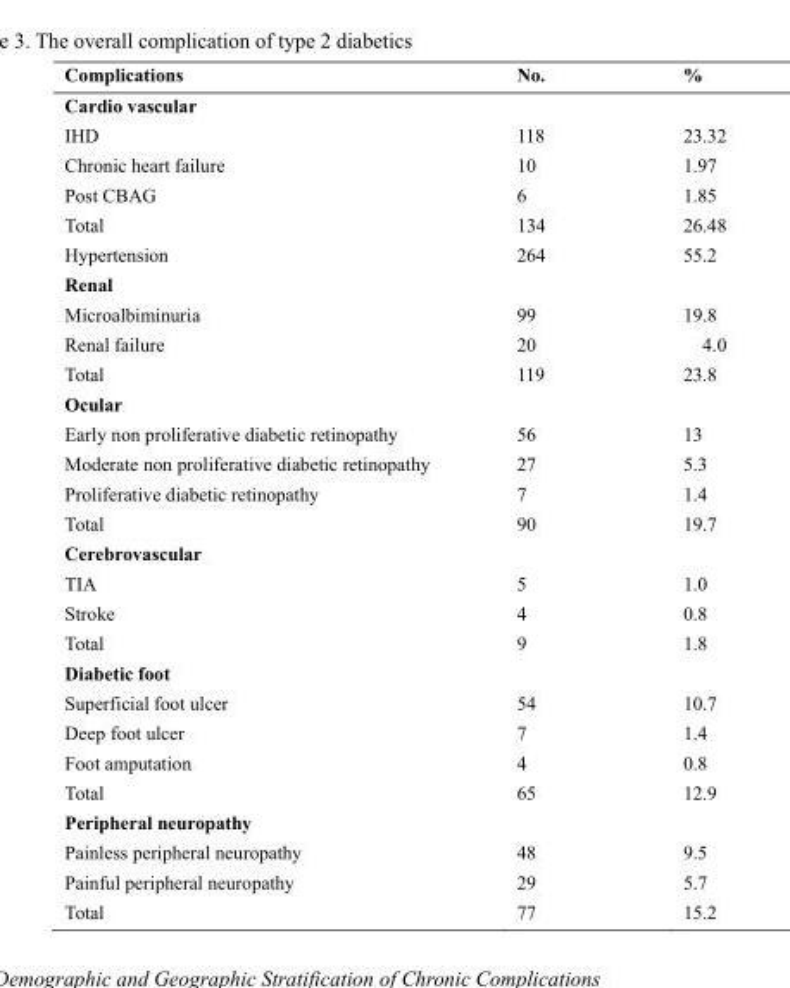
<table><thead><tr><td>Complications</td><td>No.</td><td>%</td></tr></thead><tbody><tr><td colspan="3">Cardio vascular</td></tr><tr><td>IHD</td><td>118</td><td>23.32</td></tr><tr><td>Chronic heart failure</td><td>10</td><td>1.97</td></tr><tr><td>Post CBAG</td><td>6</td><td>1.85</td></tr><tr><td>Total</td><td>134</td><td>26.48</td></tr><tr><td>Hypertension</td><td>264</td><td>55.2</td></tr><tr><td colspan="3">Renal</td></tr><tr><td>Microalbiminuria</td><td>99</td><td>19.8</td></tr><tr><td>Renal failure</td><td>20</td><td>4.0</td></tr><tr><td>Total</td><td>119</td><td>23.8</td></tr><tr><td colspan="3">Ocular</td></tr><tr><td>Early non proliferative diabetic retinopathy</td><td>56</td><td>13</td></tr><tr><td>Moderate non proliferative diabetic retinopathy</td><td>27</td><td>5.3</td></tr><tr><td>Proliferative diabetic retinopathy</td><td>7</td><td>1.4</td></tr><tr><td>Total</td><td>90</td><td>19.7</td></tr><tr><td colspan="3">Cerebrovascular</td></tr><tr><td>TIA</td><td>5</td><td>1.0</td></tr><tr><td>Stroke</td><td>4</td><td>0.8</td></tr><tr><td>Total</td><td>9</td><td>1.8</td></tr><tr><td colspan="3">Diabetic foot</td></tr><tr><td>Superficial foot ulcer</td><td>54</td><td>10.7</td></tr><tr><td>Deep foot ulcer</td><td>7</td><td>1.4</td></tr><tr><td>Foot amputation</td><td>4</td><td>0.8</td></tr><tr><td>Total</td><td>65</td><td>12.9</td></tr><tr><td colspan="3">Peripheral neuropathy</td></tr><tr><td>Painless peripheral neuropathy</td><td>48</td><td>9.5</td></tr><tr><td>Painful peripheral neuropathy</td><td>29</td><td>5.7</td></tr><tr><td>Total</td><td>77</td><td>15.2</td></tr></tbody></table>